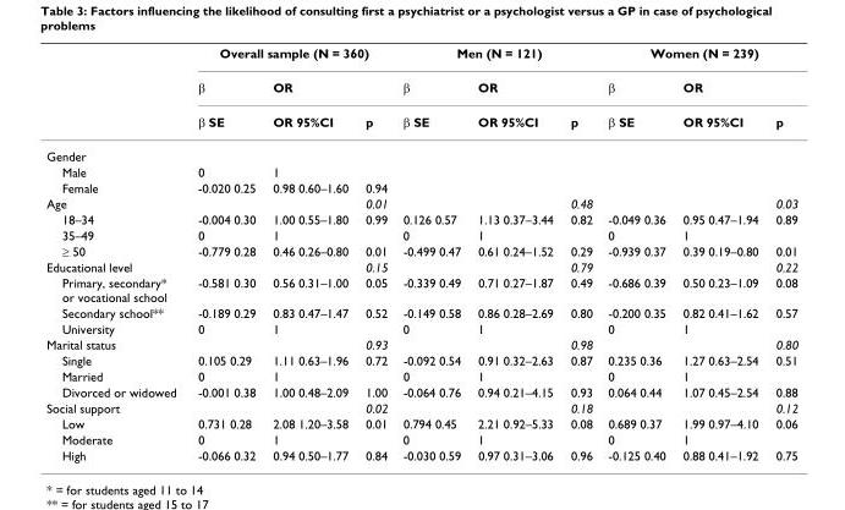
<table><thead><tr><td rowspan="3"></td><td colspan="3">Overall sample (N = 360)</td><td colspan="3">Men (N = 121)</td><td colspan="3">Women (N = 239)</td></tr><tr><td rowspan="2">β β SE</td><td colspan="2">OR</td><td rowspan="2">β β SE</td><td colspan="2">OR</td><td rowspan="2">β β SE</td><td colspan="2">OR</td></tr><tr><td>OR 95%CI</td><td>p</td><td>OR 95%CI</td><td>p</td><td>OR 95%CI</td><td>p</td></tr></thead><tbody><tr><td colspan="10">Gender</td></tr><tr><td>Male</td><td>0</td><td>1</td><td></td><td></td><td></td><td></td><td></td><td></td><td></td></tr><tr><td>Female</td><td>-0.020 0.25</td><td>0.98 0.60–1.60</td><td>0.94</td><td></td><td></td><td></td><td></td><td></td><td></td></tr><tr><td>Age</td><td></td><td></td><td>0.01</td><td></td><td></td><td>0.48</td><td></td><td></td><td>0.03</td></tr><tr><td>18–34</td><td>-0.004 0.30</td><td>1.00 0.55–1.80</td><td>0.99</td><td>0.126 0.57</td><td>1.13 0.37–3.44</td><td>0.82</td><td>-0.049 0.36</td><td>0.95 0.47–1.94</td><td>0.89</td></tr><tr><td>35–49</td><td>0</td><td>1</td><td></td><td>0</td><td>1</td><td></td><td>0</td><td>1</td><td></td></tr><tr><td>≥ 50</td><td>-0.779 0.28</td><td>0.46 0.26–0.80</td><td>0.01</td><td>-0.499 0.47</td><td>0.61 0.24–1.52</td><td>0.29</td><td>-0.939 0.37</td><td>0.39 0.19–0.80</td><td>0.01</td></tr><tr><td>Educational level</td><td></td><td></td><td>0.15</td><td></td><td></td><td>0.79</td><td></td><td></td><td>0.22</td></tr><tr><td>Primary, secondary* or vocational school</td><td>-0.581 0.30</td><td>0.56 0.31–1.00</td><td>0.05</td><td>-0.339 0.49</td><td>0.71 0.27–1.87</td><td>0.49</td><td>-0.686 0.39</td><td>0.50 0.23–1.09</td><td>0.08</td></tr><tr><td>Secondary school**</td><td>-0.189 0.29</td><td>0.83 0.47–1.47</td><td>0.52</td><td>-0.149 0.58</td><td>0.86 0.28–2.69</td><td>0.80</td><td>-0.200 0.35</td><td>0.82 0.41–1.62</td><td>0.57</td></tr><tr><td>University</td><td>0</td><td>1</td><td></td><td>0</td><td>1</td><td></td><td>0</td><td>1</td><td></td></tr><tr><td>Marital status</td><td></td><td></td><td>0.93</td><td></td><td></td><td>0.98</td><td></td><td></td><td>0.80</td></tr><tr><td>Single</td><td>0.105 0.29</td><td>1.11 0.63–1.96</td><td>0.72</td><td>-0.092 0.54</td><td>0.91 0.32–2.63</td><td>0.87</td><td>0.235 0.36</td><td>1.27 0.63–2.54</td><td>0.51</td></tr><tr><td>Married</td><td>0</td><td>1</td><td></td><td>0</td><td>1</td><td></td><td>0</td><td>1</td><td></td></tr><tr><td>Divorced or widowed</td><td>-0.001 0.38</td><td>1.00 0.48–2.09</td><td>1.00</td><td>-0.064 0.76</td><td>0.94 0.21–4.15</td><td>0.93</td><td>0.064 0.44</td><td>1.07 0.45–2.54</td><td>0.88</td></tr><tr><td>Social support</td><td></td><td></td><td>0.02</td><td></td><td></td><td>0.18</td><td></td><td></td><td>0.12</td></tr><tr><td>Low</td><td>0.731 0.28</td><td>2.08 1.20–3.58</td><td>0.01</td><td>0.794 0.45</td><td>2.21 0.92–5.33</td><td>0.08</td><td>0.689 0.37</td><td>1.99 0.97–4.10</td><td>0.06</td></tr><tr><td>Moderate</td><td>0</td><td>1</td><td></td><td>0</td><td>1</td><td></td><td>0</td><td>1</td><td></td></tr><tr><td>High</td><td>-0.066 0.32</td><td>0.94 0.50–1.77</td><td>0.84</td><td>-0.030 0.59</td><td>0.97 0.31–3.06</td><td>0.96</td><td>-0.125 0.40</td><td>0.88 0.41–1.92</td><td>0.75</td></tr></tbody></table>